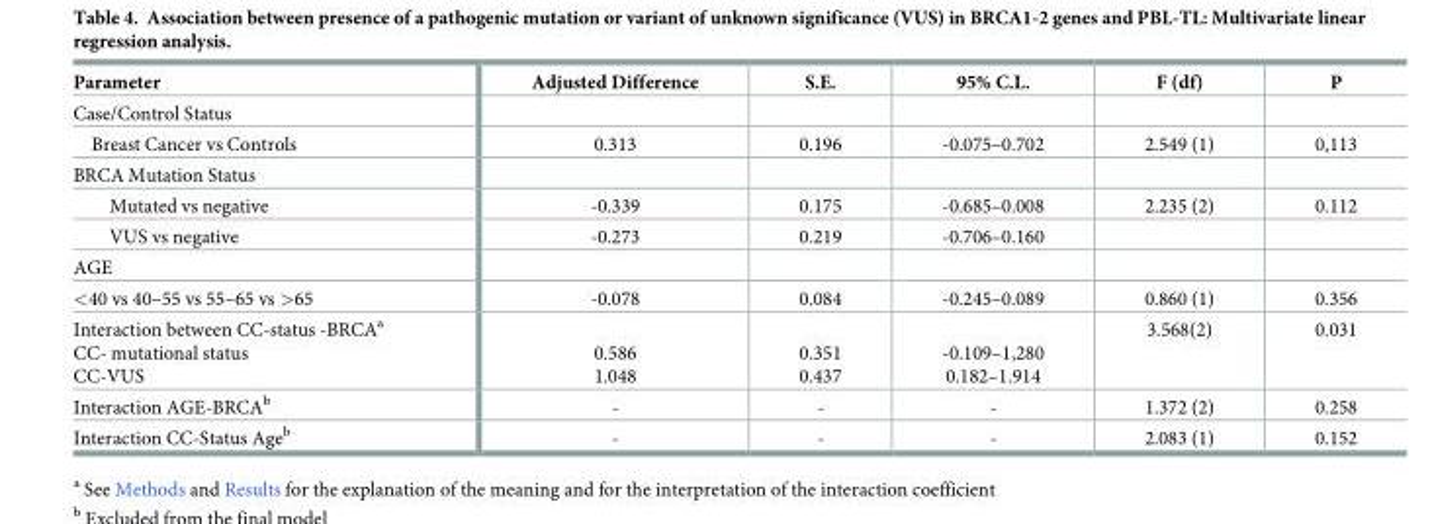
<table><thead><tr><td>Parameter</td><td>Adjusted Difference</td><td>S.E.</td><td>95% C.L.</td><td>F (df)</td><td>P</td></tr></thead><tbody><tr><td colspan="6">Case/Control Status</td></tr><tr><td>Breast Cancer vs Controls</td><td>0.313</td><td>0.196</td><td>-0.075–0.702</td><td>2.549 (1)</td><td>0,113</td></tr><tr><td colspan="6">BRCA Mutation Status</td></tr><tr><td>Mutated vs negative</td><td>-0.339</td><td>0.175</td><td>-0.685–0.008</td><td>2.235 (2)</td><td>0.112</td></tr><tr><td>VUS vs negative</td><td>-0.273</td><td>0.219</td><td>-0.706–0.160</td><td></td><td></td></tr><tr><td colspan="6">AGE</td></tr><tr><td>&lt;40 vs 40–55 vs 55–65 vs &gt;65</td><td>-0.078</td><td>0.084</td><td>-0.245–0.089</td><td>0.860 (1)</td><td>0.356</td></tr><tr><td>Interaction between CC-status -BRCA<sup>a</sup> CC- mutational status CC-VUS</td><td>0.586 1.048</td><td>0.351 0.437</td><td>-0.109–1,280 0.182–1.914</td><td>3.568(2)</td><td>0.031</td></tr><tr><td>Interaction AGE-BRCA<sup>b</sup></td><td>-</td><td>-</td><td>-</td><td>1.372 (2)</td><td>0.258</td></tr><tr><td>Interaction CC-Status Age<sup>b</sup></td><td>-</td><td>-</td><td>-</td><td>2.083 (1)</td><td>0.152</td></tr></tbody></table>